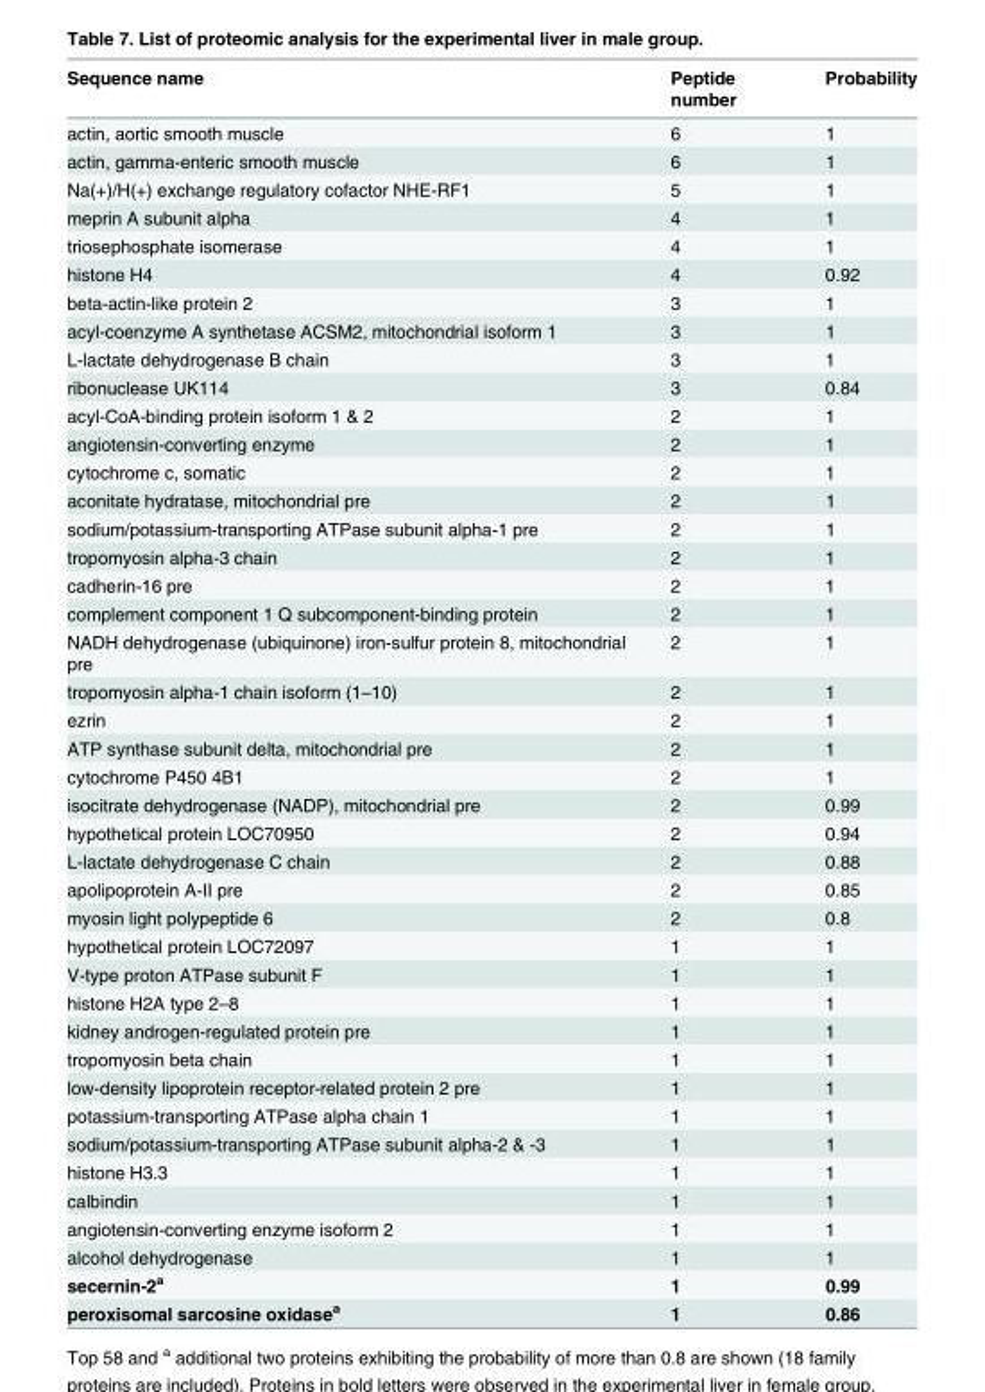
<table><thead><tr><td>Sequence name</td><td>Peptide number</td><td>Probability</td></tr></thead><tbody><tr><td>actin, aortic smooth muscle</td><td>6</td><td>1</td></tr><tr><td>actin, gamma-enteric smooth muscle</td><td>6</td><td>1</td></tr><tr><td>Na(+)/H(+) exchange regulatory cofactor NHE-RF1</td><td>5</td><td>1</td></tr><tr><td>meprin A subunit alpha</td><td>4</td><td>1</td></tr><tr><td>triosephosphate isomerase</td><td>4</td><td>1</td></tr><tr><td>histone H4</td><td>4</td><td>0.92</td></tr><tr><td>beta-actin-like protein 2</td><td>3</td><td>1</td></tr><tr><td>acyl-coenzyme A synthetase ACSM2, mitochondrial isoform 1</td><td>3</td><td>1</td></tr><tr><td>L-lactate dehydrogenase B chain</td><td>3</td><td>1</td></tr><tr><td>ribonuclease UK114</td><td>3</td><td>0.84</td></tr><tr><td>acyl-CoA-binding protein isoform 1 &amp; 2</td><td>2</td><td>1</td></tr><tr><td>angiotensin-converting enzyme</td><td>2</td><td>1</td></tr><tr><td>cytochrome c, somatic</td><td>2</td><td>1</td></tr><tr><td>aconitate hydratase, mitochondrial pre</td><td>2</td><td>1</td></tr><tr><td>sodium/potassium-transporting ATPase subunit alpha-1 pre</td><td>2</td><td>1</td></tr><tr><td>tropomyosin alpha-3 chain</td><td>2</td><td>1</td></tr><tr><td>cadherin-16 pre</td><td>2</td><td>1</td></tr><tr><td>complement component 1 Q subcomponent-binding protein</td><td>2</td><td>1</td></tr><tr><td>NADH dehydrogenase (ubiquinone) iron-sulfur protein 8, mitochondrial pre</td><td>2</td><td>1</td></tr><tr><td>tropomyosin alpha-1 chain isoform (1–10)</td><td>2</td><td>1</td></tr><tr><td>ezrin</td><td>2</td><td>1</td></tr><tr><td>ATP synthase subunit delta, mitochondrial pre</td><td>2</td><td>1</td></tr><tr><td>cytochrome P450 4B1</td><td>2</td><td>1</td></tr><tr><td>isocitrate dehydrogenase (NADP), mitochondrial pre</td><td>2</td><td>0.99</td></tr><tr><td>hypothetical protein LOC70950</td><td>2</td><td>0.94</td></tr><tr><td>L-lactate dehydrogenase C chain</td><td>2</td><td>0.88</td></tr><tr><td>apolipoprotein A-II pre</td><td>2</td><td>0.85</td></tr><tr><td>myosin light polypeptide 6</td><td>2</td><td>0.8</td></tr><tr><td>hypothetical protein LOC72097</td><td>1</td><td>1</td></tr><tr><td>V-type proton ATPase subunit F</td><td>1</td><td>1</td></tr><tr><td>histone H2A type 2–8</td><td>1</td><td>1</td></tr><tr><td>kidney androgen-regulated protein pre</td><td>1</td><td>1</td></tr><tr><td>tropomyosin beta chain</td><td>1</td><td>1</td></tr><tr><td>low-density lipoprotein receptor-related protein 2 pre</td><td>1</td><td>1</td></tr><tr><td>potassium-transporting ATPase alpha chain 1</td><td>1</td><td>1</td></tr><tr><td>sodium/potassium-transporting ATPase subunit alpha-2 &amp; -3</td><td>1</td><td>1</td></tr><tr><td>histone H3.3</td><td>1</td><td>1</td></tr><tr><td>calbindin</td><td>1</td><td>1</td></tr><tr><td>angiotensin-converting enzyme isoform 2</td><td>1</td><td>1</td></tr><tr><td>alcohol dehydrogenase</td><td>1</td><td>1</td></tr><tr><td>secernin-2<sup>a</sup></td><td>1</td><td>0.99</td></tr><tr><td>peroxisomal sarcosine oxidase<sup>a</sup></td><td>1</td><td>0.86</td></tr></tbody></table>